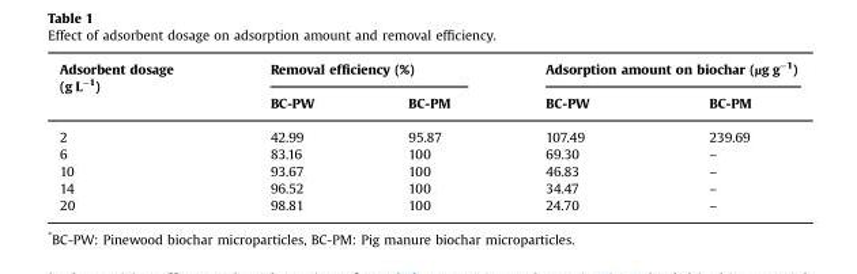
<table><thead><tr><td rowspan="2">Adsorbent dosage (g L<sup>−1</sup>)</td><td colspan="2">Removal efficiency (%)</td><td colspan="2">Adsorption amount on biochar (µg g<sup>−1</sup>)</td></tr><tr><td>BC-PW</td><td>BC-PM</td><td>BC-PW</td><td>BC-PM</td></tr></thead><tbody><tr><td>2</td><td>42.99</td><td>95.87</td><td>107.49</td><td>239.69</td></tr><tr><td>6</td><td>83.16</td><td>100</td><td>69.30</td><td>–</td></tr><tr><td>10</td><td>93.67</td><td>100</td><td>46.83</td><td>–</td></tr><tr><td>14</td><td>96.52</td><td>100</td><td>34.47</td><td>–</td></tr><tr><td>20</td><td>98.81</td><td>100</td><td>24.70</td><td>–</td></tr></tbody></table>